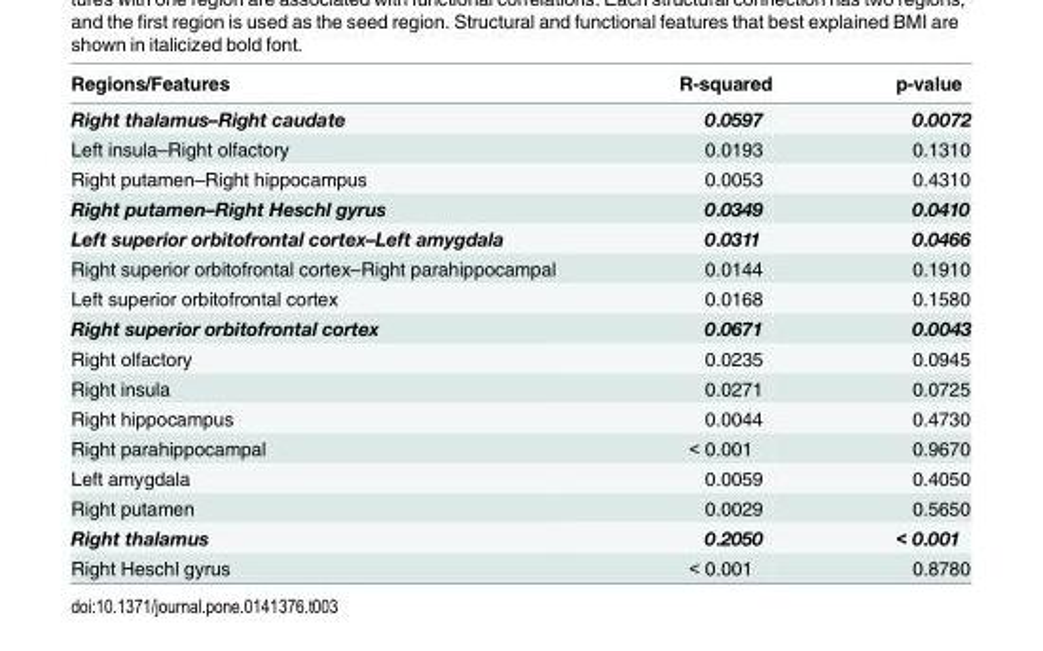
<table><thead><tr><td>Regions/Features</td><td>R-squared</td><td>p-value</td></tr></thead><tbody><tr><td>Right thalamus–Right caudate</td><td>0.0597</td><td>0.0072</td></tr><tr><td>Left insula–Right olfactory</td><td>0.0193</td><td>0.1310</td></tr><tr><td>Right putamen–Right hippocampus</td><td>0.0053</td><td>0.4310</td></tr><tr><td>Right putamen–Right Heschl gyrus</td><td>0.0349</td><td>0.0410</td></tr><tr><td>Left superior orbitofrontal cortex–Left amygdala</td><td>0.0311</td><td>0.0466</td></tr><tr><td>Right superior orbitofrontal cortex–Right parahippocampal</td><td>0.0144</td><td>0.1910</td></tr><tr><td>Left superior orbitofrontal cortex</td><td>0.0168</td><td>0.1580</td></tr><tr><td>Right superior orbitofrontal cortex</td><td>0.0671</td><td>0.0043</td></tr><tr><td>Right olfactory</td><td>0.0235</td><td>0.0945</td></tr><tr><td>Right insula</td><td>0.0271</td><td>0.0725</td></tr><tr><td>Right hippocampus</td><td>0.0044</td><td>0.4730</td></tr><tr><td>Right parahippocampal</td><td>&lt; 0.001</td><td>0.9670</td></tr><tr><td>Left amygdala</td><td>0.0059</td><td>0.4050</td></tr><tr><td>Right putamen</td><td>0.0029</td><td>0.5650</td></tr><tr><td>Right thalamus</td><td>0.2050</td><td>&lt; 0.001</td></tr><tr><td>Right Heschl gyrus</td><td>&lt; 0.001</td><td>0.8780</td></tr></tbody></table>